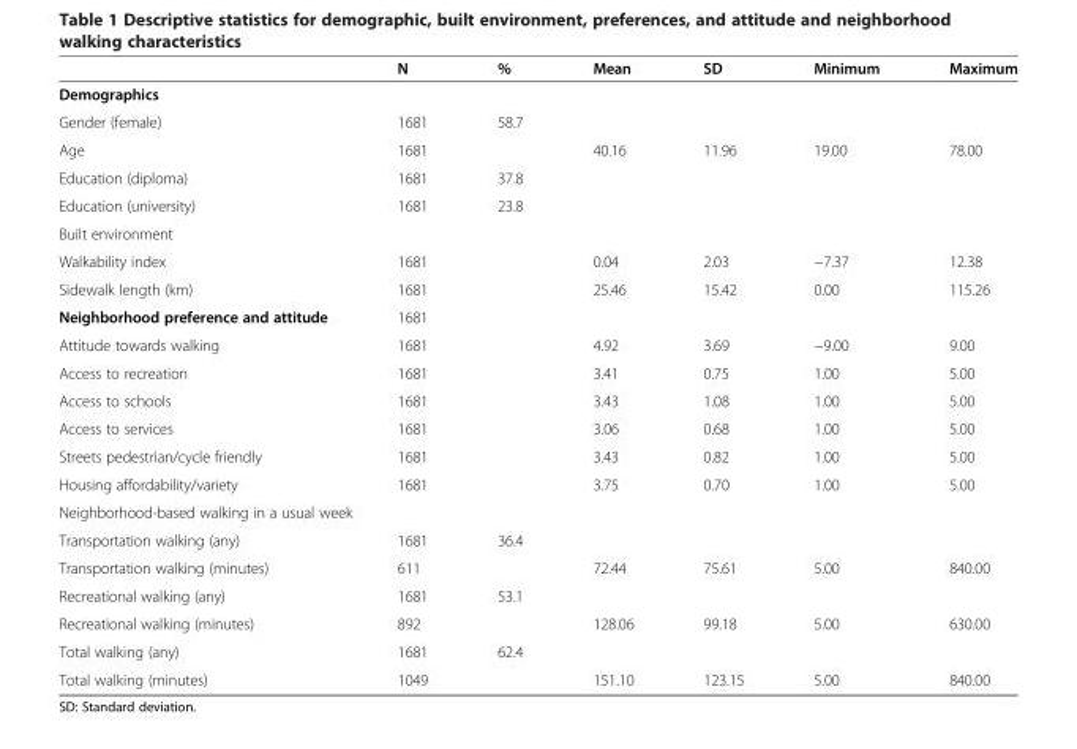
<table><thead><tr><td></td><td>N</td><td>%</td><td>Mean</td><td>SD</td><td>Minimum</td><td>Maximum</td></tr></thead><tbody><tr><td colspan="7">Demographics</td></tr><tr><td>Gender (female)</td><td>1681</td><td>58.7</td><td></td><td></td><td></td><td></td></tr><tr><td>Age</td><td>1681</td><td></td><td>40.16</td><td>11.96</td><td>19.00</td><td>78.00</td></tr><tr><td>Education (diploma)</td><td>1681</td><td>37.8</td><td></td><td></td><td></td><td></td></tr><tr><td>Education (university)</td><td>1681</td><td>23.8</td><td></td><td></td><td></td><td></td></tr><tr><td colspan="7">Built environment</td></tr><tr><td>Walkability index</td><td>1681</td><td></td><td>0.04</td><td>2.03</td><td>−7.37</td><td>12.38</td></tr><tr><td>Sidewalk length (km)</td><td>1681</td><td></td><td>25.46</td><td>15.42</td><td>0.00</td><td>115.26</td></tr><tr><td>Neighborhood preference and attitude</td><td>1681</td><td></td><td></td><td></td><td></td><td></td></tr><tr><td>Attitude towards walking</td><td>1681</td><td></td><td>4.92</td><td>3.69</td><td>−9.00</td><td>9.00</td></tr><tr><td>Access to recreation</td><td>1681</td><td></td><td>3.41</td><td>0.75</td><td>1.00</td><td>5.00</td></tr><tr><td>Access to schools</td><td>1681</td><td></td><td>3.43</td><td>1.08</td><td>1.00</td><td>5.00</td></tr><tr><td>Access to services</td><td>1681</td><td></td><td>3.06</td><td>0.68</td><td>1.00</td><td>5.00</td></tr><tr><td>Streets pedestrian/cycle friendly</td><td>1681</td><td></td><td>3.43</td><td>0.82</td><td>1.00</td><td>5.00</td></tr><tr><td>Housing affordability/variety</td><td>1681</td><td></td><td>3.75</td><td>0.70</td><td>1.00</td><td>5.00</td></tr><tr><td colspan="7">Neighborhood-based walking in a usual week</td></tr><tr><td>Transportation walking (any)</td><td>1681</td><td>36.4</td><td></td><td></td><td></td><td></td></tr><tr><td>Transportation walking (minutes)</td><td>611</td><td></td><td>72.44</td><td>75.61</td><td>5.00</td><td>840.00</td></tr><tr><td>Recreational walking (any)</td><td>1681</td><td>53.1</td><td></td><td></td><td></td><td></td></tr><tr><td>Recreational walking (minutes)</td><td>892</td><td></td><td>128.06</td><td>99.18</td><td>5.00</td><td>630.00</td></tr><tr><td>Total walking (any)</td><td>1681</td><td>62.4</td><td></td><td></td><td></td><td></td></tr><tr><td>Total walking (minutes)</td><td>1049</td><td></td><td>151.10</td><td>123.15</td><td>5.00</td><td>840.00</td></tr></tbody></table>